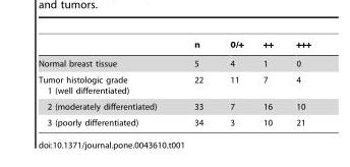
<table><thead><tr><td></td><td>n</td><td>0/+</td><td>++</td><td>+++</td></tr></thead><tbody><tr><td>Normal breast tissue</td><td>5</td><td>4</td><td>1</td><td>0</td></tr><tr><td>Tumor histologic grade 1 (well differentiated)</td><td>22</td><td>11</td><td>7</td><td>4</td></tr><tr><td>2 (moderately differentiated)</td><td>33</td><td>7</td><td>16</td><td>10</td></tr><tr><td>3 (poorly differentiated)</td><td>34</td><td>3</td><td>10</td><td>21</td></tr></tbody></table>